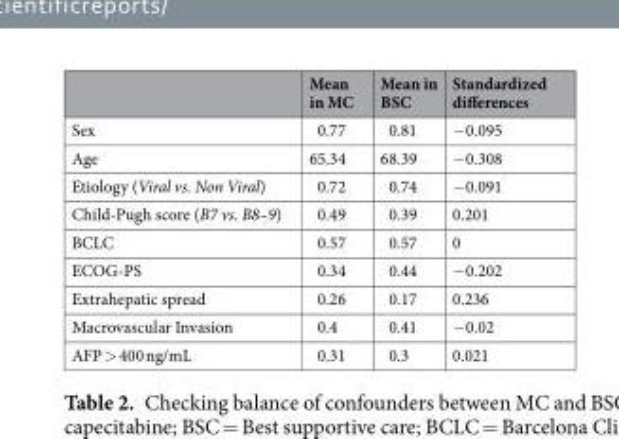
<table><thead><tr><td></td><td>Mean in MC</td><td>Mean in BSC</td><td>Standardized differences</td></tr></thead><tbody><tr><td>Sex</td><td>0.77</td><td>0.81</td><td>−0.095</td></tr><tr><td>Age</td><td>65.34</td><td>68.39</td><td>−0.308</td></tr><tr><td>Etiology (Viral vs. Non Viral)</td><td>0.72</td><td>0.74</td><td>−0.091</td></tr><tr><td>Child-Pugh score (B7 vs. B8–9)</td><td>0.49</td><td>0.39</td><td>0.201</td></tr><tr><td>BCLC</td><td>0.57</td><td>0.57</td><td>0</td></tr><tr><td>ECOG-PS</td><td>0.34</td><td>0.44</td><td>−0.202</td></tr><tr><td>Extrahepatic spread</td><td>0.26</td><td>0.17</td><td>0.236</td></tr><tr><td>Macrovascular Invasion</td><td>0.4</td><td>0.41</td><td>−0.02</td></tr><tr><td>AFP &gt; 400 ng/mL</td><td>0.31</td><td>0.3</td><td>0.021</td></tr></tbody></table>